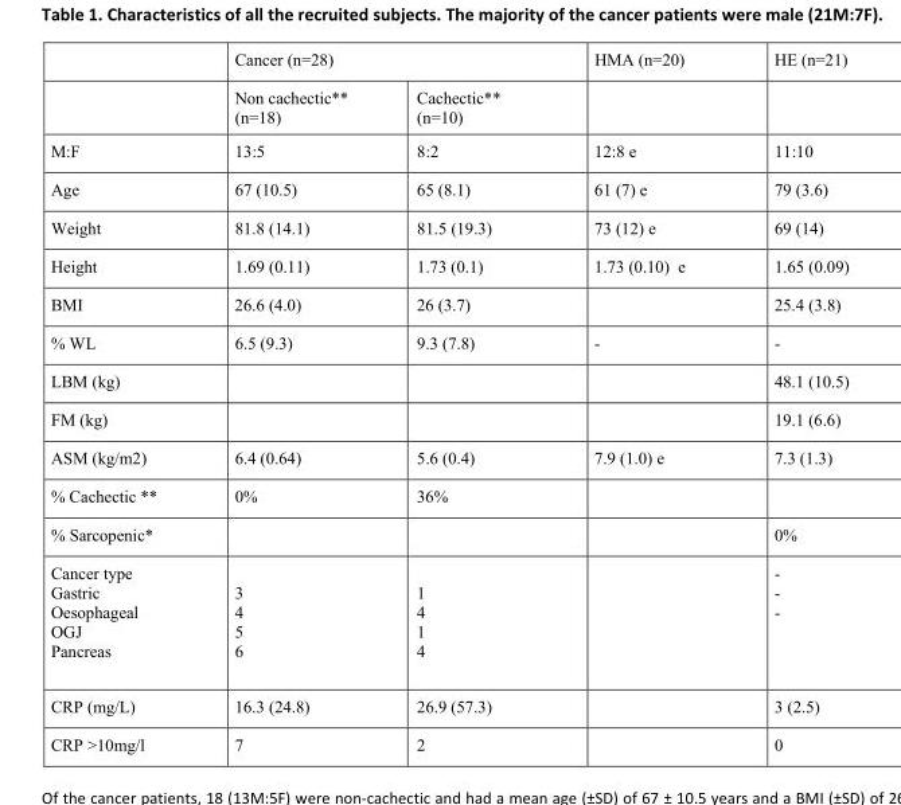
<table><thead><tr><td rowspan="2"></td><td colspan="2">Cancer (n=28)</td><td rowspan="2">HMA (n=20)</td><td rowspan="2">HE (n=21)</td></tr><tr><td>Non cachectic** (n=18)</td><td>Cachectic** (n=10)</td></tr></thead><tbody><tr><td>M:F</td><td>13:5</td><td>8:2</td><td>12:8 e</td><td>11:10</td></tr><tr><td>Age</td><td>67 (10.5)</td><td>65 (8.1)</td><td>61 (7) e</td><td>79 (3.6)</td></tr><tr><td>Weight</td><td>81.8 (14.1)</td><td>81.5 (19.3)</td><td>73 (12) e</td><td>69 (14)</td></tr><tr><td>Height</td><td>1.69 (0.11)</td><td>1.73 (0.1)</td><td>1.73 (0.10) e</td><td>1.65 (0.09)</td></tr><tr><td>BMI</td><td>26.6 (4.0)</td><td>26 (3.7)</td><td></td><td>25.4 (3.8)</td></tr><tr><td>% WL</td><td>6.5 (9.3)</td><td>9.3 (7.8)</td><td>-</td><td>-</td></tr><tr><td>LBM (kg)</td><td></td><td></td><td></td><td>48.1 (10.5)</td></tr><tr><td>FM (kg)</td><td></td><td></td><td></td><td>19.1 (6.6)</td></tr><tr><td>ASM (kg/m2)</td><td>6.4 (0.64)</td><td>5.6 (0.4)</td><td>7.9 (1.0) e</td><td>7.3 (1.3)</td></tr><tr><td>% Cachectic **</td><td>0%</td><td>36%</td><td></td><td></td></tr><tr><td>% Sarcopenic*</td><td></td><td></td><td></td><td>0%</td></tr><tr><td>Cancer type</td><td></td><td></td><td></td><td>-</td></tr><tr><td>Gastric</td><td>3</td><td>1</td><td></td><td>-</td></tr><tr><td>Oesophageal</td><td>4</td><td>4</td><td></td><td>-</td></tr><tr><td>OGJ</td><td>5</td><td>1</td><td></td><td></td></tr><tr><td>Pancreas</td><td>6</td><td>4</td><td></td><td></td></tr><tr><td>CRP (mg/L)</td><td>16.3 (24.8)</td><td>26.9 (57.3)</td><td></td><td>3 (2.5)</td></tr><tr><td>CRP &gt;10mg/l</td><td>7</td><td>2</td><td></td><td>0</td></tr></tbody></table>